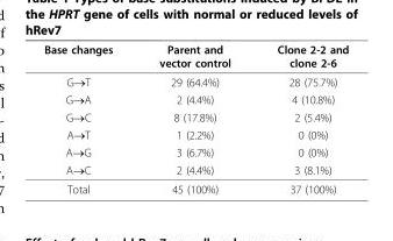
<table><thead><tr><td>Base changes</td><td>Parent and vector control</td><td>Clone 2-2 and clone 2-6</td></tr></thead><tbody><tr><td>G→T</td><td>29 (64.4%)</td><td>28 (75.7%)</td></tr><tr><td>G→A</td><td>2 (4.4%)</td><td>4 (10.8%)</td></tr><tr><td>G→C</td><td>8 (17.8%)</td><td>2 (5.4%)</td></tr><tr><td>A→T</td><td>1 (2.2%)</td><td>0 (0%)</td></tr><tr><td>A→G</td><td>3 (6.7%)</td><td>0 (0%)</td></tr><tr><td>A→C</td><td>2 (4.4%)</td><td>3 (8.1%)</td></tr><tr><td>Total</td><td>45 (100%)</td><td>37 (100%)</td></tr></tbody></table>